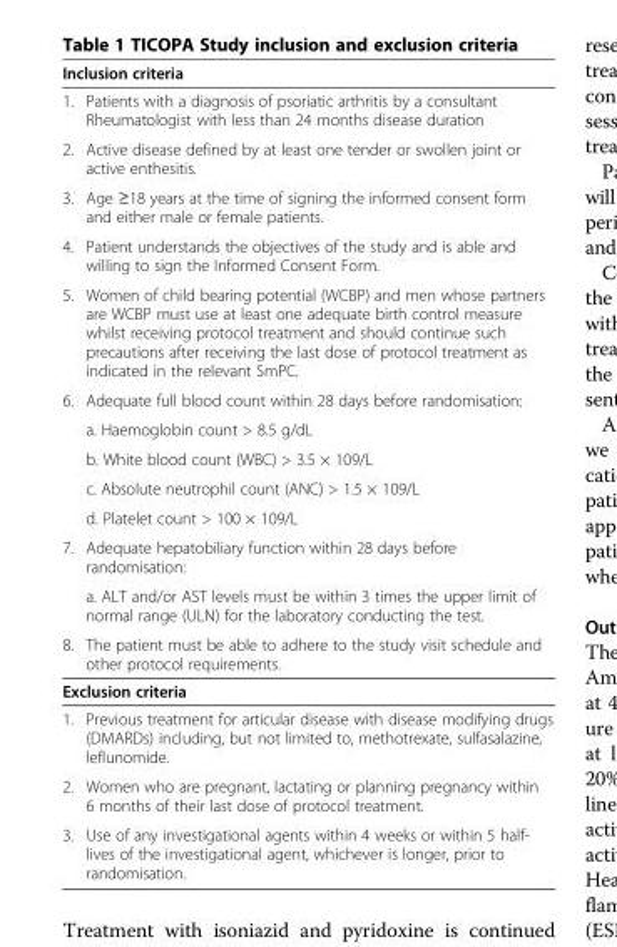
<table><tbody><tr><td colspan="2">Inclusion criteria</td></tr><tr><td>1.</td><td>Patients with a diagnosis of psoriatic arthritis by a consultant Rheumatologist with less than 24 months disease duration</td></tr><tr><td>2.</td><td>Active disease defined by at least one tender or swollen joint or active enthesitis.</td></tr><tr><td>3.</td><td>Age ≥18 years at the time of signing the informed consent form and either male or female patients.</td></tr><tr><td>4.</td><td>Patient understands the objectives of the study and is able and willing to sign the Informed Consent Form.</td></tr><tr><td>5.</td><td>Women of child bearing potential (WCBP) and men whose partners are WCBP must use at least one adequate birth control measure whilst receiving protocol treatment and should continue such precautions after receiving the last dose of protocol treatment as indicated in the relevant SmPC.</td></tr><tr><td rowspan="5">6.</td><td>Adequate full blood count within 28 days before randomisation:</td></tr><tr><td>a. Haemoglobin count &gt; 8.5 g/dL</td></tr><tr><td>b. White blood count (WBC) &gt; 3.5 × 109/L</td></tr><tr><td>c. Absolute neutrophil count (ANC) &gt; 1.5 × 109/L</td></tr><tr><td>d. Platelet count &gt; 100 × 109/L</td></tr><tr><td rowspan="2">7.</td><td>Adequate hepatobiliary function within 28 days before randomisation:</td></tr><tr><td>a. ALT and/or AST levels must be within 3 times the upper limit of normal range (ULN) for the laboratory conducting the test.</td></tr><tr><td>8.</td><td>The patient must be able to adhere to the study visit schedule and other protocol requirements.</td></tr><tr><td colspan="2">Exclusion criteria</td></tr><tr><td>1.</td><td>Previous treatment for articular disease with disease modifying drugs (DMARDs) including, but not limited to, methotrexate, sulfasalazine, leflunomide.</td></tr><tr><td>2.</td><td>Women who are pregnant, lactating or planning pregnancy within 6 months of their last dose of protocol treatment.</td></tr><tr><td>3.</td><td>Use of any investigational agents within 4 weeks or within 5 half- lives of the investigational agent, whichever is longer, prior to randomisation.</td></tr></tbody></table>